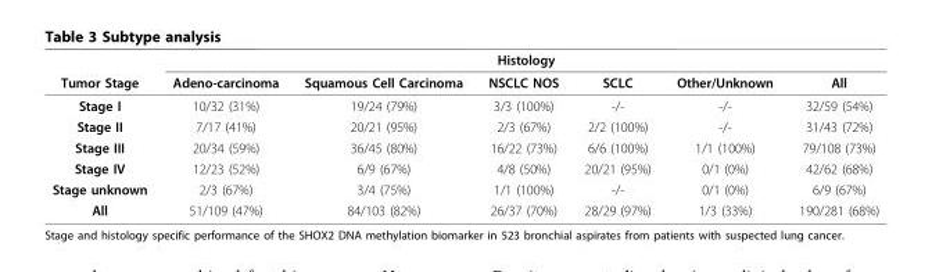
<table><thead><tr><td rowspan="2">Tumor Stage</td><td colspan="6">Histology</td></tr><tr><td>Adeno-carcinoma</td><td>Squamous Cell Carcinoma</td><td>NSCLC NOS</td><td>SCLC</td><td>Other/Unknown</td><td>All</td></tr></thead><tbody><tr><td>Stage I</td><td>10/32 (31%)</td><td>19/24 (79%)</td><td>3/3 (100%)</td><td>-/-</td><td>-/-</td><td>32/59 (54%)</td></tr><tr><td>Stage II</td><td>7/17 (41%)</td><td>20/21 (95%)</td><td>2/3 (67%)</td><td>2/2 (100%)</td><td>-/-</td><td>31/43 (72%)</td></tr><tr><td>Stage III</td><td>20/34 (59%)</td><td>36/45 (80%)</td><td>16/22 (73%)</td><td>6/6 (100%)</td><td>1/1 (100%)</td><td>79/108 (73%)</td></tr><tr><td>Stage IV</td><td>12/23 (52%)</td><td>6/9 (67%)</td><td>4/8 (50%)</td><td>20/21 (95%)</td><td>0/1 (0%)</td><td>42/62 (68%)</td></tr><tr><td>Stage unknown</td><td>2/3 (67%)</td><td>3/4 (75%)</td><td>1/1 (100%)</td><td>-/-</td><td>0/1 (0%)</td><td>6/9 (67%)</td></tr><tr><td>All</td><td>51/109 (47%)</td><td>84/103 (82%)</td><td>26/37 (70%)</td><td>28/29 (97%)</td><td>1/3 (33%)</td><td>190/281 (68%)</td></tr></tbody></table>